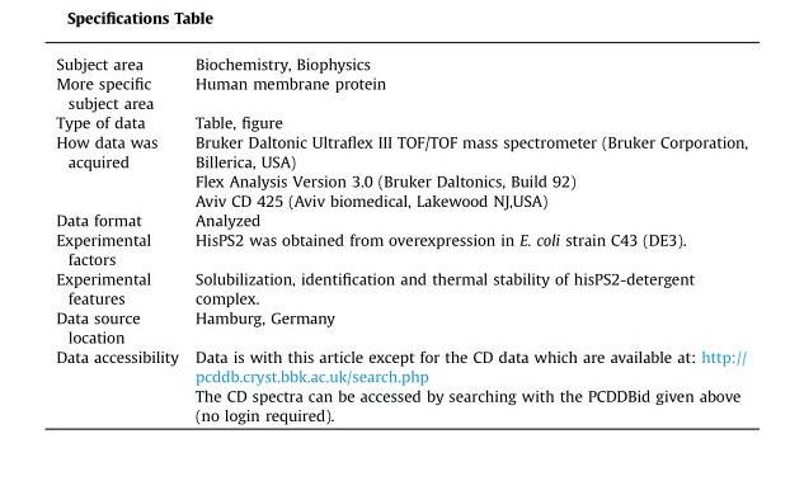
<table><tbody><tr><td>Subject area</td><td>Biochemistry, Biophysics</td></tr><tr><td>More specific subject area</td><td>Human membrane protein</td></tr><tr><td>Type of data</td><td>Table, figure</td></tr><tr><td rowspan="3">How data was acquired</td><td>Bruker Daltonic Ultraflex III TOF/TOF mass spectrometer (Bruker Corporation, Billerica, USA)</td></tr><tr><td>Flex Analysis Version 3.0 (Bruker Daltonics, Build 92)</td></tr><tr><td>Aviv CD 425 (Aviv biomedical, Lakewood NJ,USA)</td></tr><tr><td>Data format</td><td>Analyzed</td></tr><tr><td>Experimental factors</td><td>HisPS2 was obtained from overexpression in E. coli strain C43 (DE3).</td></tr><tr><td>Experimental features</td><td>Solubilization, identification and thermal stability of hisPS2-detergent complex.</td></tr><tr><td>Data source location</td><td>Hamburg, Germany</td></tr><tr><td rowspan="2">Data accessibility</td><td>Data is with this article except for the CD data which are available at: http:// pcddb.cryst.bbk.ac.uk/search.php</td></tr><tr><td>The CD spectra can be accessed by searching with the PCDDBid given above (no login required).</td></tr></tbody></table>